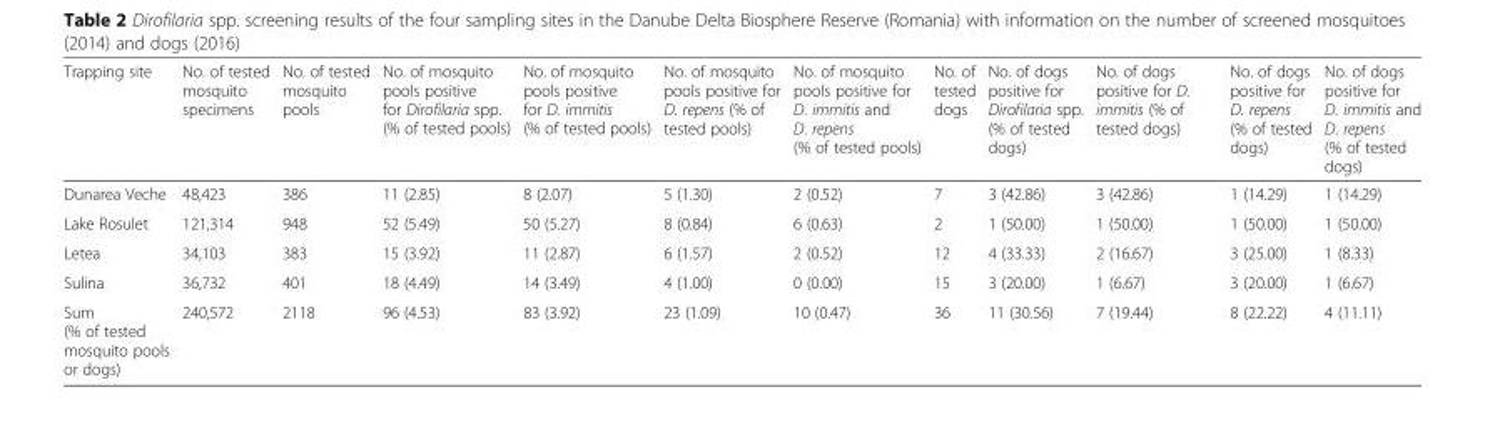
<table><thead><tr><td>Trapping site</td><td>No. of tested mosquito specimens</td><td>No. of tested mosquito pools</td><td>No. of mosquito pools positive for Dirofilaria spp. (% of tested pools)</td><td>No. of mosquito pools positive for D. immitis (% of tested pools)</td><td>No. of mosquito pools positive for D. repens (% of tested pools)</td><td>No. of mosquito pools positive for D. immitis and D. repens (% of tested pools)</td><td>No. of tested dogs</td><td>No. of dogs positive for Dirofilaria spp. (% of tested dogs)</td><td>No. of dogs positive for D. immitis (% of tested dogs)</td><td>No. of dogs positive for D. repens (% of tested dogs)</td><td>No. of dogs positive for D. immitis and D. repens (% of tested dogs)</td></tr></thead><tbody><tr><td>Dunarea Veche</td><td>48,423</td><td>386</td><td>11 (2.85)</td><td>8 (2.07)</td><td>5 (1.30)</td><td>2 (0.52)</td><td>7</td><td>3 (42.86)</td><td>3 (42.86)</td><td>1 (14.29)</td><td>1 (14.29)</td></tr><tr><td>Lake Rosulet</td><td>121,314</td><td>948</td><td>52 (5.49)</td><td>50 (5.27)</td><td>8 (0.84)</td><td>6 (0.63)</td><td>2</td><td>1 (50.00)</td><td>1 (50.00)</td><td>1 (50.00)</td><td>1 (50.00)</td></tr><tr><td>Letea</td><td>34,103</td><td>383</td><td>15 (3.92)</td><td>11 (2.87)</td><td>6 (1.57)</td><td>2 (0.52)</td><td>12</td><td>4 (33.33)</td><td>2 (16.67)</td><td>3 (25.00)</td><td>1 (8.33)</td></tr><tr><td>Sulina</td><td>36,732</td><td>401</td><td>18 (4.49)</td><td>14 (3.49)</td><td>4 (1.00)</td><td>0 (0.00)</td><td>15</td><td>3 (20.00)</td><td>1 (6.67)</td><td>3 (20.00)</td><td>1 (6.67)</td></tr><tr><td>Sum (% of tested mosquito pools or dogs)</td><td>240,572</td><td>2118</td><td>96 (4.53)</td><td>83 (3.92)</td><td>23 (1.09)</td><td>10 (0.47)</td><td>36</td><td>11 (30.56)</td><td>7 (19.44)</td><td>8 (22.22)</td><td>4 (11.11)</td></tr></tbody></table>